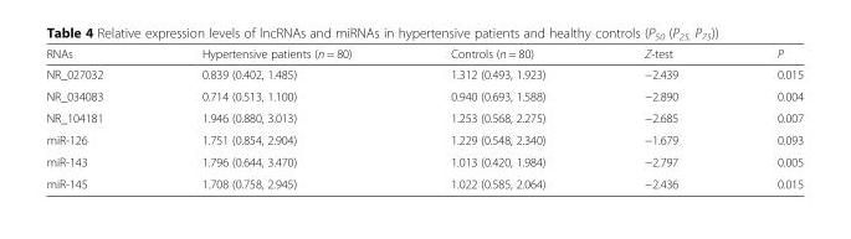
<table><thead><tr><td>RNAs</td><td>Hypertensive patients (n = 80)</td><td>Controls (n = 80)</td><td>Z-test</td><td>P</td></tr></thead><tbody><tr><td>NR_027032</td><td>0.839 (0.402, 1.485)</td><td>1.312 (0.493, 1.923)</td><td>−2.439</td><td>0.015</td></tr><tr><td>NR_034083</td><td>0.714 (0.513, 1.100)</td><td>0.940 (0.693, 1.588)</td><td>−2.890</td><td>0.004</td></tr><tr><td>NR_104181</td><td>1.946 (0.880, 3.013)</td><td>1.253 (0.568, 2.275)</td><td>−2.685</td><td>0.007</td></tr><tr><td>miR-126</td><td>1.751 (0.854, 2.904)</td><td>1.229 (0.548, 2.340)</td><td>−1.679</td><td>0.093</td></tr><tr><td>miR-143</td><td>1.796 (0.644, 3.470)</td><td>1.013 (0.420, 1.984)</td><td>−2.797</td><td>0.005</td></tr><tr><td>miR-145</td><td>1.708 (0.758, 2.945)</td><td>1.022 (0.585, 2.064)</td><td>−2.436</td><td>0.015</td></tr></tbody></table>